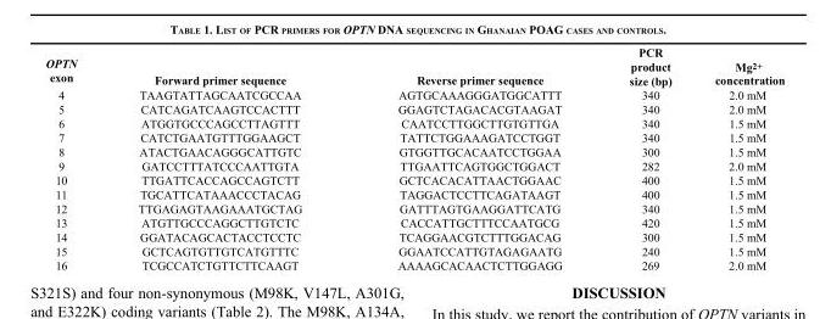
<table><thead><tr><td>OPTN exon</td><td>Forward primer sequence</td><td>Reverse primer sequence</td><td>PCR product size (bp)</td><td>Mg<sup>2+</sup> concentration</td></tr></thead><tbody><tr><td>4</td><td>TAAGTATTAGCAATCGCCAA</td><td>AGTGCAAAGGGATGGCATTT</td><td>340</td><td>2.0 mM</td></tr><tr><td>5</td><td>CATCAGATCAAGTCCACTTT</td><td>GGAGTCTAGACACGTAAGAT</td><td>340</td><td>2.0 mM</td></tr><tr><td>6</td><td>ATGGTGCCCAGCCTTAGTTT</td><td>CAATCCTTGGCTTGTGTTGA</td><td>340</td><td>1.5 mM</td></tr><tr><td>7</td><td>CATCTGAATGTTTGGAAGCT</td><td>TATTCTGGAAAGATCCTGGT</td><td>340</td><td>1.5 mM</td></tr><tr><td>8</td><td>ATACTGAACAGGGCATTGTC</td><td>GTGGTTGCACAATCCTGGAA</td><td>300</td><td>1.5 mM</td></tr><tr><td>9</td><td>GATCCTTTATCCCAATTGTA</td><td>TTGAATTCAGTGGCTGGACT</td><td>282</td><td>2.0 mM</td></tr><tr><td>10</td><td>TTGATTCACCAGCCAGTCTT</td><td>GCTCACACATTAACTGGAAC</td><td>400</td><td>1.5 mM</td></tr><tr><td>11</td><td>TGCATTCATAAACCCTACAG</td><td>TAGGACTCCTTCAGATAAGT</td><td>400</td><td>1.5 mM</td></tr><tr><td>12</td><td>TTGAGAGTAAGAAATGCTAG</td><td>GATTTAGTGAAGGATTCATG</td><td>340</td><td>1.5 mM</td></tr><tr><td>13</td><td>ATGTTGCCCAGGCTTGTCTC</td><td>CACCATTGCTTTCCAATGCG</td><td>420</td><td>1.5 mM</td></tr><tr><td>14</td><td>GGATACAGCACTACCTCCTC</td><td>TCAGGAACGTCTTTGGACAG</td><td>300</td><td>1.5 mM</td></tr><tr><td>15</td><td>GCTCAGTGTTGTCATGTTTC</td><td>GGAATCCATTGTAGAGAATG</td><td>240</td><td>1.5 mM</td></tr><tr><td>16</td><td>TCGCCATCTGTTCTTCAAGT</td><td>AAAAGCACAACTCTTGGAGG</td><td>269</td><td>2.0 mM</td></tr></tbody></table>